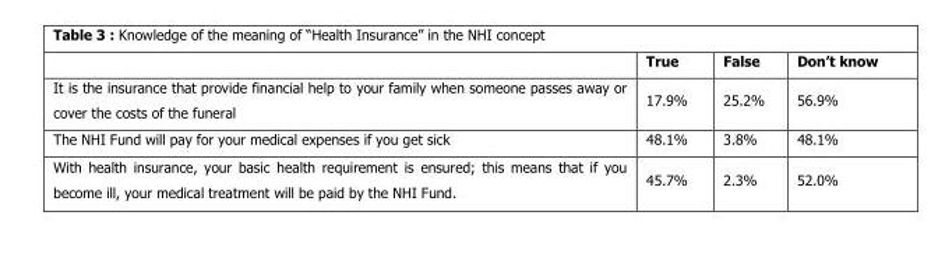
<table><thead><tr><td></td><td>True</td><td>False</td><td>Don’t know</td></tr></thead><tbody><tr><td>It is the insurance that provide financial help to your family when someone passes away or cover the costs of the funeral</td><td>17.9%</td><td>25.2%</td><td>56.9%</td></tr><tr><td>The NHI Fund will pay for your medical expenses if you get sick</td><td>48.1%</td><td>3.8%</td><td>48.1%</td></tr><tr><td>With health insurance, your basic health requirement is ensured; this means that if you become ill, your medical treatment will be paid by the NHI Fund.</td><td>45.7%</td><td>2.3%</td><td>52.0%</td></tr></tbody></table>